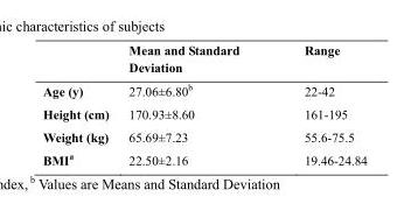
<table><thead><tr><td></td><td>Mean and Standard Deviation</td><td>Range</td></tr></thead><tbody><tr><td>Age (y)</td><td>27.06±6.80<sup>b</sup></td><td>22-42</td></tr><tr><td>Height (cm)</td><td>170.93±8.60</td><td>161-195</td></tr><tr><td>Weight (kg)</td><td>65.69±7.23</td><td>55.6-75.5</td></tr><tr><td>BMI<sup>a</sup></td><td>22.50±2.16</td><td>19.46-24.84</td></tr></tbody></table>